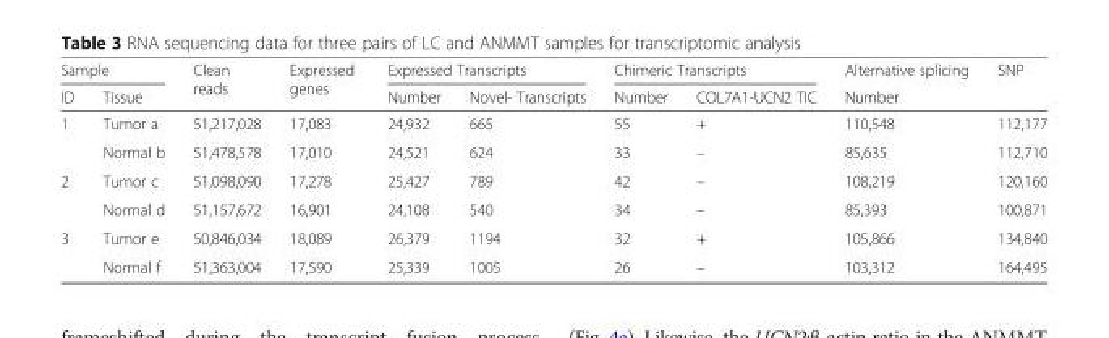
<table><thead><tr><td colspan="2">Sample</td><td rowspan="2">Clean reads</td><td rowspan="2">Expressed genes</td><td colspan="2">Expressed Transcripts</td><td colspan="2">Chimeric Transcripts</td><td rowspan="2">Alternative splicing Number</td><td rowspan="2">SNP</td></tr><tr><td>ID</td><td>Tissue</td><td>Number</td><td>Novel- Transcripts</td><td>Number</td><td>COL7A1-UCN2 TIC</td></tr></thead><tbody><tr><td rowspan="2">1</td><td>Tumor a</td><td>51,217,028</td><td>17,083</td><td>24,932</td><td>665</td><td>55</td><td>+</td><td>110,548</td><td>112,177</td></tr><tr><td>Normal b</td><td>51,478,578</td><td>17,010</td><td>24,521</td><td>624</td><td>33</td><td>–</td><td>85,635</td><td>112,710</td></tr><tr><td rowspan="2">2</td><td>Tumor c</td><td>51,098,090</td><td>17,278</td><td>25,427</td><td>789</td><td>42</td><td>–</td><td>108,219</td><td>120,160</td></tr><tr><td>Normal d</td><td>51,157,672</td><td>16,901</td><td>24,108</td><td>540</td><td>34</td><td>–</td><td>85,393</td><td>100,871</td></tr><tr><td rowspan="2">3</td><td>Tumor e</td><td>50,846,034</td><td>18,089</td><td>26,379</td><td>1194</td><td>32</td><td>+</td><td>105,866</td><td>134,840</td></tr><tr><td>Normal f</td><td>51,363,004</td><td>17,590</td><td>25,339</td><td>1005</td><td>26</td><td>–</td><td>103,312</td><td>164,495</td></tr></tbody></table>